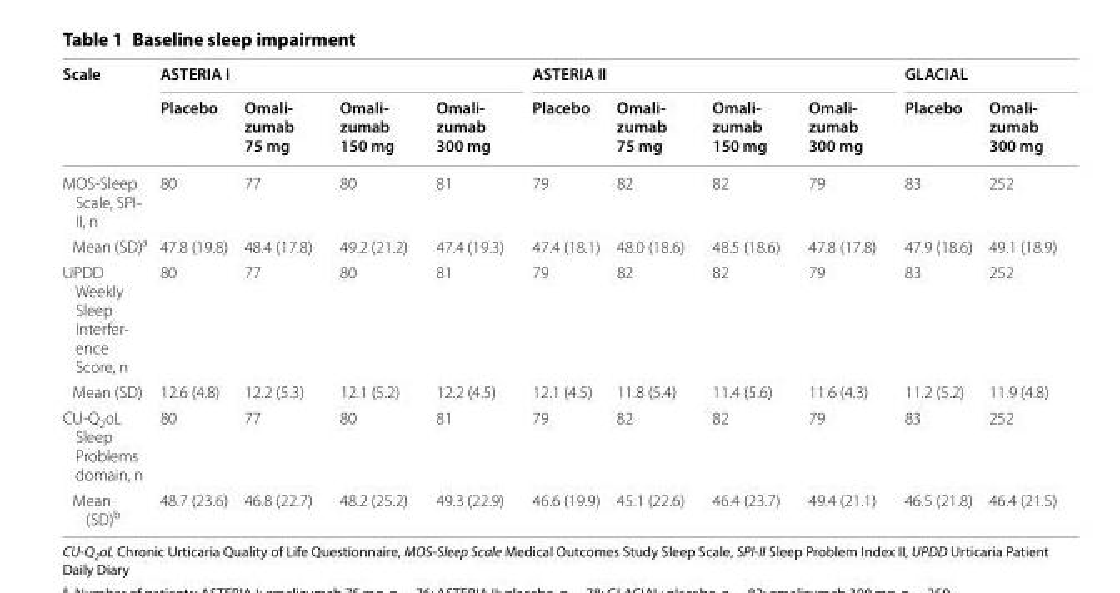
<table><thead><tr><td rowspan="2">Scale</td><td colspan="4">ASTERIA I</td><td colspan="4">ASTERIA II</td><td colspan="2">GLACIAL</td></tr><tr><td>Placebo</td><td>Omali‑ zumab 75 mg</td><td>Omali‑ zumab 150 mg</td><td>Omali‑ zumab 300 mg</td><td>Placebo</td><td>Omali‑ zumab 75 mg</td><td>Omali‑ zumab 150 mg</td><td>Omali‑ zumab 300 mg</td><td>Placebo</td><td>Omali‑ zumab 300 mg</td></tr></thead><tbody><tr><td>MOS‑Sleep Scale, SPI‑ II, n</td><td>80</td><td>77</td><td>80</td><td>81</td><td>79</td><td>82</td><td>82</td><td>79</td><td>83</td><td>252</td></tr><tr><td>Mean (SD)<sup>a</sup></td><td>47.8 (19.8)</td><td>48.4 (17.8)</td><td>49.2 (21.2)</td><td>47.4 (19.3)</td><td>47.4 (18.1)</td><td>48.0 (18.6)</td><td>48.5 (18.6)</td><td>47.8 (17.8)</td><td>47.9 (18.6)</td><td>49.1 (18.9)</td></tr><tr><td>UPDD Weekly Sleep Interfer‑ ence Score, n</td><td>80</td><td>77</td><td>80</td><td>81</td><td>79</td><td>82</td><td>82</td><td>79</td><td>83</td><td>252</td></tr><tr><td>Mean (SD)</td><td>12.6 (4.8)</td><td>12.2 (5.3)</td><td>12.1 (5.2)</td><td>12.2 (4.5)</td><td>12.1 (4.5)</td><td>11.8 (5.4)</td><td>11.4 (5.6)</td><td>11.6 (4.3)</td><td>11.2 (5.2)</td><td>11.9 (4.8)</td></tr><tr><td>CU‑Q<sub>2</sub>oL Sleep Problems domain, n</td><td>80</td><td>77</td><td>80</td><td>81</td><td>79</td><td>82</td><td>82</td><td>79</td><td>83</td><td>252</td></tr><tr><td>Mean (SD)<sup>b</sup></td><td>48.7 (23.6)</td><td>46.8 (22.7)</td><td>48.2 (25.2)</td><td>49.3 (22.9)</td><td>46.6 (19.9)</td><td>45.1 (22.6)</td><td>46.4 (23.7)</td><td>49.4 (21.1)</td><td>46.5 (21.8)</td><td>46.4 (21.5)</td></tr></tbody></table>